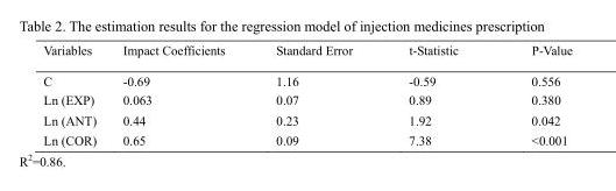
<table><thead><tr><td>Variables</td><td>Impact Coefficients</td><td>Standard Error</td><td>t-Statistic</td><td>P-Value</td></tr></thead><tbody><tr><td>C</td><td>-0.69</td><td>1.16</td><td>-0.59</td><td>0.556</td></tr><tr><td>Ln (EXP)</td><td>0.063</td><td>0.07</td><td>0.89</td><td>0.380</td></tr><tr><td>Ln (ANT)</td><td>0.44</td><td>0.23</td><td>1.92</td><td>0.042</td></tr><tr><td>Ln (COR)</td><td>0.65</td><td>0.09</td><td>7.38</td><td>&lt;0.001</td></tr></tbody></table>